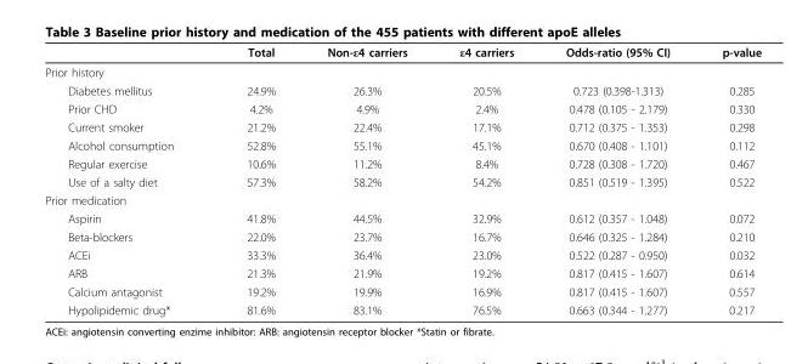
<table><thead><tr><td></td><td>Total</td><td>Non-ε4 carriers</td><td>ε4 carriers</td><td>Odds-ratio (95% CI)</td><td>p-value</td></tr></thead><tbody><tr><td colspan="6">Prior history</td></tr><tr><td>Diabetes mellitus</td><td>24.9%</td><td>26.3%</td><td>20.5%</td><td>0.723 (0.398-1.313)</td><td>0.285</td></tr><tr><td>Prior CHD</td><td>4.2%</td><td>4.9%</td><td>2.4%</td><td>0.478 (0.105 - 2.179)</td><td>0.330</td></tr><tr><td>Current smoker</td><td>21.2%</td><td>22.4%</td><td>17.1%</td><td>0.712 (0.375 - 1.353)</td><td>0.298</td></tr><tr><td>Alcohol consumption</td><td>52.8%</td><td>55.1%</td><td>45.1%</td><td>0.670 (0.408 - 1.101)</td><td>0.112</td></tr><tr><td>Regular exercise</td><td>10.6%</td><td>11.2%</td><td>8.4%</td><td>0.728 (0.308 - 1.720)</td><td>0.467</td></tr><tr><td>Use of a salty diet</td><td>57.3%</td><td>58.2%</td><td>54.2%</td><td>0.851 (0.519 - 1.395)</td><td>0.522</td></tr><tr><td colspan="6">Prior medication</td></tr><tr><td>Aspirin</td><td>41.8%</td><td>44.5%</td><td>32.9%</td><td>0.612 (0.357 - 1.048)</td><td>0.072</td></tr><tr><td>Beta-blockers</td><td>22.0%</td><td>23.7%</td><td>16.7%</td><td>0.646 (0.325 - 1.284)</td><td>0.210</td></tr><tr><td>ACEi</td><td>33.3%</td><td>36.4%</td><td>23.0%</td><td>0.522 (0.287 - 0.950)</td><td>0.032</td></tr><tr><td>ARB</td><td>21.3%</td><td>21.9%</td><td>19.2%</td><td>0.817 (0.415 - 1.607)</td><td>0.614</td></tr><tr><td>Calcium antagonist</td><td>19.2%</td><td>19.9%</td><td>16.9%</td><td>0.817 (0.415 - 1.607)</td><td>0.557</td></tr><tr><td>Hypolipidemic drug*</td><td>81.6%</td><td>83.1%</td><td>76.5%</td><td>0.663 (0.344 - 1.277)</td><td>0.217</td></tr></tbody></table>